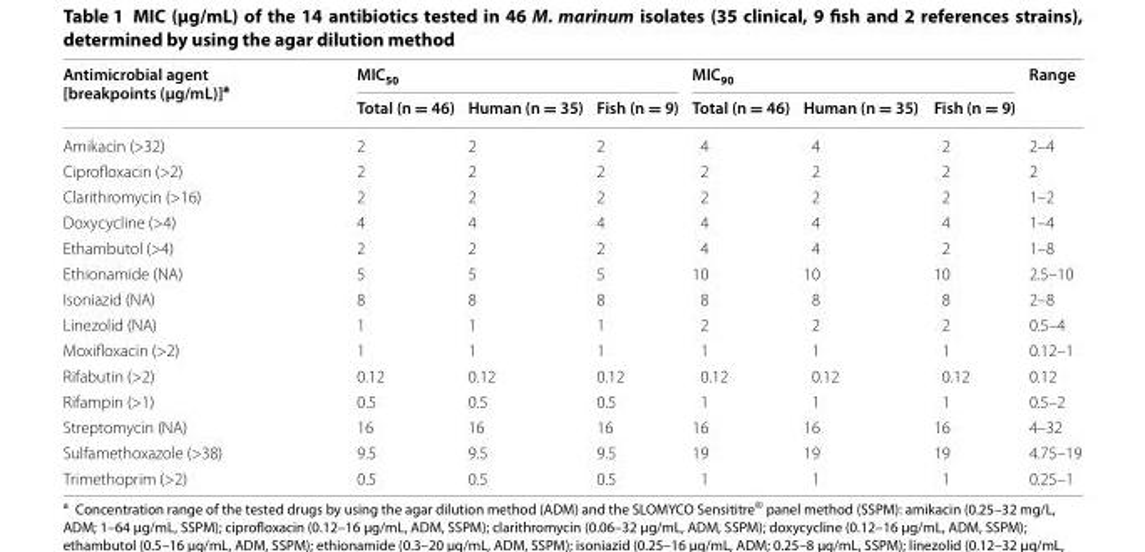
<table><thead><tr><td rowspan="2">Antimicrobial agent [breakpoints (µg/mL)]<sup>a</sup></td><td colspan="3">MIC<sub>50</sub></td><td colspan="3">MIC<sub>90</sub></td><td rowspan="2">Range</td></tr><tr><td>Total (n = 46)</td><td>Human (n = 35)</td><td>Fish (n = 9)</td><td>Total (n = 46)</td><td>Human (n = 35)</td><td>Fish (n = 9)</td></tr></thead><tbody><tr><td>Amikacin (&gt;32)</td><td>2</td><td>2</td><td>2</td><td>4</td><td>4</td><td>2</td><td>2–4</td></tr><tr><td>Ciprofloxacin (&gt;2)</td><td>2</td><td>2</td><td>2</td><td>2</td><td>2</td><td>2</td><td>2</td></tr><tr><td>Clarithromycin (&gt;16)</td><td>2</td><td>2</td><td>2</td><td>2</td><td>2</td><td>2</td><td>1–2</td></tr><tr><td>Doxycycline (&gt;4)</td><td>4</td><td>4</td><td>4</td><td>4</td><td>4</td><td>4</td><td>1–4</td></tr><tr><td>Ethambutol (&gt;4)</td><td>2</td><td>2</td><td>2</td><td>4</td><td>4</td><td>2</td><td>1–8</td></tr><tr><td>Ethionamide (NA)</td><td>5</td><td>5</td><td>5</td><td>10</td><td>10</td><td>10</td><td>2.5–10</td></tr><tr><td>Isoniazid (NA)</td><td>8</td><td>8</td><td>8</td><td>8</td><td>8</td><td>8</td><td>2–8</td></tr><tr><td>Linezolid (NA)</td><td>1</td><td>1</td><td>1</td><td>2</td><td>2</td><td>2</td><td>0.5–4</td></tr><tr><td>Moxifloxacin (&gt;2)</td><td>1</td><td>1</td><td>1</td><td>1</td><td>1</td><td>1</td><td>0.12–1</td></tr><tr><td>Rifabutin (&gt;2)</td><td>0.12</td><td>0.12</td><td>0.12</td><td>0.12</td><td>0.12</td><td>0.12</td><td>0.12</td></tr><tr><td>Rifampin (&gt;1)</td><td>0.5</td><td>0.5</td><td>0.5</td><td>1</td><td>1</td><td>1</td><td>0.5–2</td></tr><tr><td>Streptomycin (NA)</td><td>16</td><td>16</td><td>16</td><td>16</td><td>16</td><td>16</td><td>4–32</td></tr><tr><td>Sulfamethoxazole (&gt;38)</td><td>9.5</td><td>9.5</td><td>9.5</td><td>19</td><td>19</td><td>19</td><td>4.75–19</td></tr><tr><td>Trimethoprim (&gt;2)</td><td>0.5</td><td>0.5</td><td>0.5</td><td>1</td><td>1</td><td>1</td><td>0.25–1</td></tr></tbody></table>